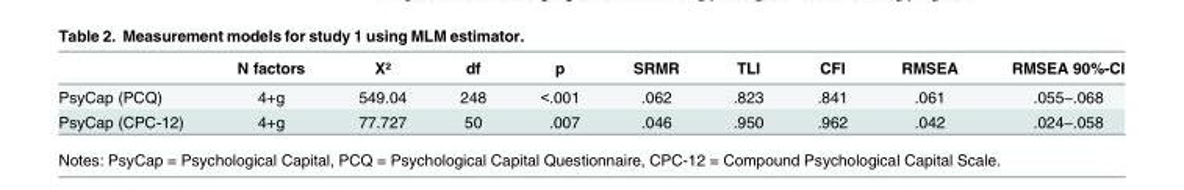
<table><thead><tr><td></td><td>N factors</td><td>X²</td><td>df</td><td>p</td><td>SRMR</td><td>TLI</td><td>CFI</td><td>RMSEA</td><td>RMSEA 90%-CI</td></tr></thead><tbody><tr><td>PsyCap (PCQ)</td><td>4+g</td><td>549.04</td><td>248</td><td>&lt;.001</td><td>.062</td><td>.823</td><td>.841</td><td>.061</td><td>.055−.068</td></tr><tr><td>PsyCap (CPC-12)</td><td>4+g</td><td>77.727</td><td>50</td><td>.007</td><td>.046</td><td>.950</td><td>.962</td><td>.042</td><td>.024−.058</td></tr></tbody></table>